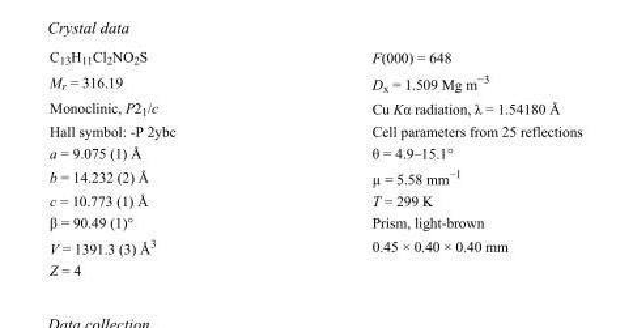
<table><tbody><tr><td>C<sub>13</sub>H<sub>11</sub>Cl<sub>2</sub>NO<sub>2</sub>S</td><td>F(000) = 648</td></tr><tr><td>M<sub>r</sub> = 316.19</td><td>D<sub>x</sub> = 1.509 Mg m<sup>−3</sup></td></tr><tr><td>Monoclinic, P2<sub>1</sub>/c</td><td>Cu Kα radiation, λ = 1.54180 Å</td></tr><tr><td>Hall symbol: -P 2ybc</td><td>Cell parameters from 25 reflections</td></tr><tr><td>a = 9.075 (1) Å</td><td>θ = 4.9–15.1°</td></tr><tr><td>b = 14.232 (2) Å</td><td>µ = 5.58 mm<sup>−1</sup></td></tr><tr><td>c = 10.773 (1) Å</td><td>T = 299 K</td></tr><tr><td>β = 90.49 (1)°</td><td>Prism, light-brown</td></tr><tr><td>V = 1391.3 (3) Å<sup>3</sup></td><td>0.45 × 0.40 × 0.40 mm</td></tr><tr><td>Z = 4</td><td></td></tr></tbody></table>